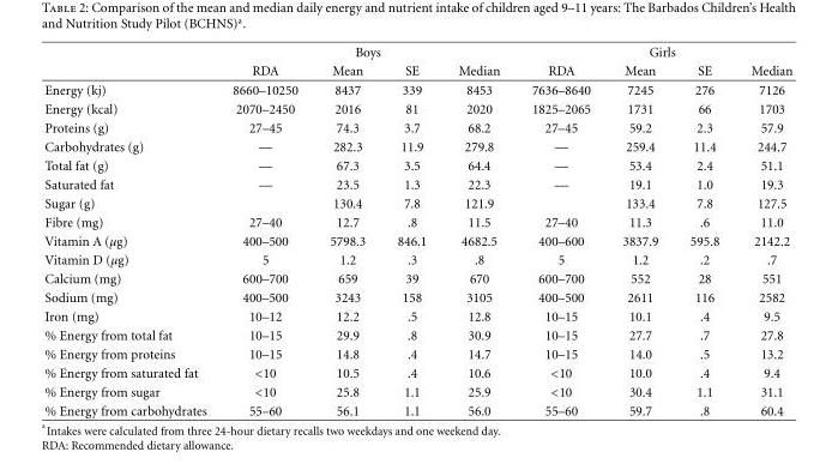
<table><thead><tr><td rowspan="2"></td><td colspan="4">Boys</td><td colspan="4">Girls</td></tr><tr><td>RDA</td><td>Mean</td><td>SE</td><td>Median</td><td>RDA</td><td>Mean</td><td>SE</td><td>Median</td></tr></thead><tbody><tr><td>Energy (kj)</td><td>8660–10250</td><td>8437</td><td>339</td><td>8453</td><td>7636–8640</td><td>7245</td><td>276</td><td>7126</td></tr><tr><td>Energy (kcal)</td><td>2070–2450</td><td>2016</td><td>81</td><td>2020</td><td>1825–2065</td><td>1731</td><td>66</td><td>1703</td></tr><tr><td>Proteins (g)</td><td>27–45</td><td>74.3</td><td>3.7</td><td>68.2</td><td>27–45</td><td>59.2</td><td>2.3</td><td>57.9</td></tr><tr><td>Carbohydrates (g)</td><td>—</td><td>282.3</td><td>11.9</td><td>279.8</td><td>—</td><td>259.4</td><td>11.4</td><td>244.7</td></tr><tr><td>Total fat (g)</td><td>—</td><td>67.3</td><td>3.5</td><td>64.4</td><td>—</td><td>53.4</td><td>2.4</td><td>51.1</td></tr><tr><td>Saturated fat</td><td>—</td><td>23.5</td><td>1.3</td><td>22.3</td><td>—</td><td>19.1</td><td>1.0</td><td>19.3</td></tr><tr><td>Sugar (g)</td><td></td><td>130.4</td><td>7.8</td><td>121.9</td><td></td><td>133.4</td><td>7.8</td><td>127.5</td></tr><tr><td>Fibre (mg)</td><td>27–40</td><td>12.7</td><td>.8</td><td>11.5</td><td>27–40</td><td>11.3</td><td>.6</td><td>11.0</td></tr><tr><td>Vitamin A (µg)</td><td>400–500</td><td>5798.3</td><td>846.1</td><td>4682.5</td><td>400–600</td><td>3837.9</td><td>595.8</td><td>2142.2</td></tr><tr><td>Vitamin D (µg)</td><td>5</td><td>1.2</td><td>.3</td><td>.8</td><td>5</td><td>1.2</td><td>.2</td><td>.7</td></tr><tr><td>Calcium (mg)</td><td>600–700</td><td>659</td><td>39</td><td>670</td><td>600–700</td><td>552</td><td>28</td><td>551</td></tr><tr><td>Sodium (mg)</td><td>400–500</td><td>3243</td><td>158</td><td>3105</td><td>400–500</td><td>2611</td><td>116</td><td>2582</td></tr><tr><td>Iron (mg)</td><td>10–12</td><td>12.2</td><td>.5</td><td>12.8</td><td>10–15</td><td>10.1</td><td>.4</td><td>9.5</td></tr><tr><td>% Energy from total fat</td><td>10–15</td><td>29.9</td><td>.8</td><td>30.9</td><td>10–15</td><td>27.7</td><td>.7</td><td>27.8</td></tr><tr><td>% Energy from proteins</td><td>10–15</td><td>14.8</td><td>.4</td><td>14.7</td><td>10–15</td><td>14.0</td><td>.5</td><td>13.2</td></tr><tr><td>% Energy from saturated fat</td><td>&lt;10</td><td>10.5</td><td>.4</td><td>10.6</td><td>&lt;10</td><td>10.0</td><td>.4</td><td>9.4</td></tr><tr><td>% Energy from sugar</td><td>&lt;10</td><td>25.8</td><td>1.1</td><td>25.9</td><td>&lt;10</td><td>30.4</td><td>1.1</td><td>31.1</td></tr><tr><td>% Energy from carbohydrates</td><td>55–60</td><td>56.1</td><td>1.1</td><td>56.0</td><td>55–60</td><td>59.7</td><td>.8</td><td>60.4</td></tr></tbody></table>